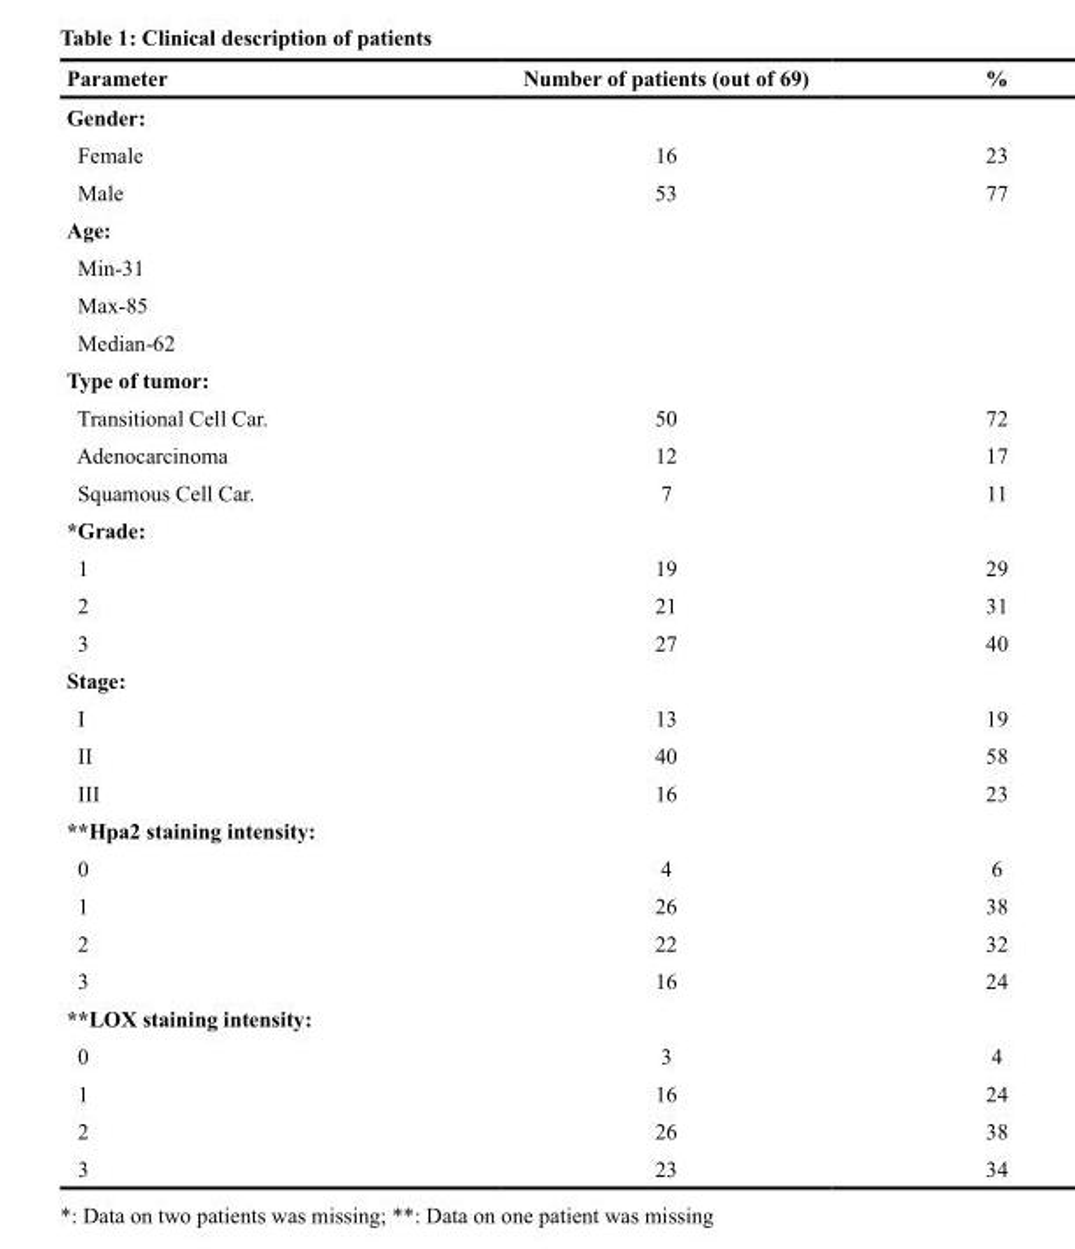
<table><thead><tr><td>Parameter</td><td>Number of patients (out of 69)</td><td>%</td></tr></thead><tbody><tr><td colspan="3">Gender:</td></tr><tr><td>Female</td><td>16</td><td>23</td></tr><tr><td>Male</td><td>53</td><td>77</td></tr><tr><td colspan="3">Age:</td></tr><tr><td colspan="3">Min-31</td></tr><tr><td colspan="3">Max-85</td></tr><tr><td colspan="3">Median-62</td></tr><tr><td colspan="3">Type of tumor:</td></tr><tr><td>Transitional Cell Car.</td><td>50</td><td>72</td></tr><tr><td>Adenocarcinoma</td><td>12</td><td>17</td></tr><tr><td>Squamous Cell Car.</td><td>7</td><td>11</td></tr><tr><td colspan="3">*Grade:</td></tr><tr><td>1</td><td>19</td><td>29</td></tr><tr><td>2</td><td>21</td><td>31</td></tr><tr><td>3</td><td>27</td><td>40</td></tr><tr><td colspan="3">Stage:</td></tr><tr><td>I</td><td>13</td><td>19</td></tr><tr><td>II</td><td>40</td><td>58</td></tr><tr><td>III</td><td>16</td><td>23</td></tr><tr><td colspan="3">**Hpa2 staining intensity:</td></tr><tr><td>0</td><td>4</td><td>6</td></tr><tr><td>1</td><td>26</td><td>38</td></tr><tr><td>2</td><td>22</td><td>32</td></tr><tr><td>3</td><td>16</td><td>24</td></tr><tr><td colspan="3">**LOX staining intensity:</td></tr><tr><td>0</td><td>3</td><td>4</td></tr><tr><td>1</td><td>16</td><td>24</td></tr><tr><td>2</td><td>26</td><td>38</td></tr><tr><td>3</td><td>23</td><td>34</td></tr></tbody></table>